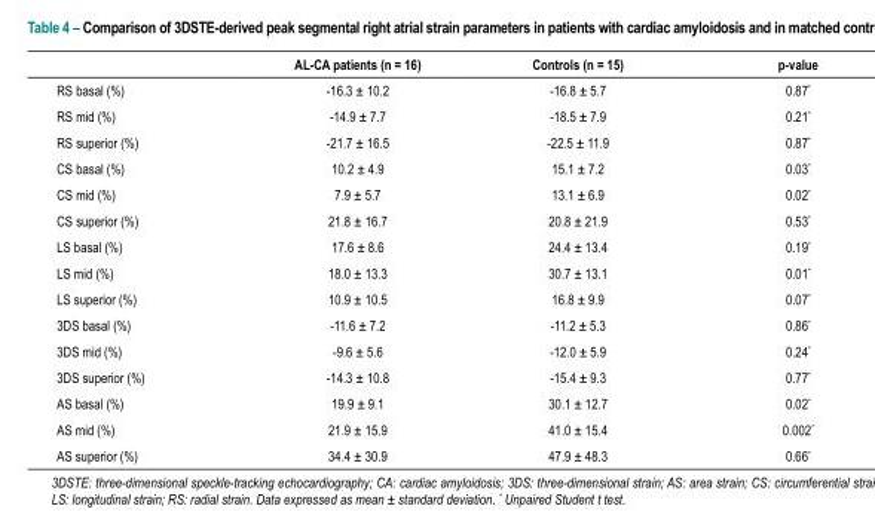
<table><thead><tr><td></td><td>AL-CA patients (n = 16)</td><td>Controls (n = 15)</td><td>p-value</td></tr></thead><tbody><tr><td>RS basal (%)</td><td>-16.3 ± 10.2</td><td>-16.8 ± 5.7</td><td>0.87*</td></tr><tr><td>RS mid (%)</td><td>-14.9 ± 7.7</td><td>-18.5 ± 7.9</td><td>0.21*</td></tr><tr><td>RS superior (%)</td><td>-21.7 ± 16.5</td><td>-22.5 ± 11.9</td><td>0.87*</td></tr><tr><td>CS basal (%)</td><td>10.2 ± 4.9</td><td>15.1 ± 7.2</td><td>0.03*</td></tr><tr><td>CS mid (%)</td><td>7.9 ± 5.7</td><td>13.1 ± 6.9</td><td>0.02*</td></tr><tr><td>CS superior (%)</td><td>21.8 ± 16.7</td><td>20.8 ± 21.9</td><td>0.53*</td></tr><tr><td>LS basal (%)</td><td>17.6 ± 8.6</td><td>24.4 ± 13.4</td><td>0.19*</td></tr><tr><td>LS mid (%)</td><td>18.0 ± 13.3</td><td>30.7 ± 13.1</td><td>0.01*</td></tr><tr><td>LS superior (%)</td><td>10.9 ± 10.5</td><td>16.8 ± 9.9</td><td>0.07*</td></tr><tr><td>3DS basal (%)</td><td>-11.6 ± 7.2</td><td>-11.2 ± 5.3</td><td>0.86*</td></tr><tr><td>3DS mid (%)</td><td>-9.6 ± 5.6</td><td>-12.0 ± 5.9</td><td>0.24*</td></tr><tr><td>3DS superior (%)</td><td>-14.3 ± 10.8</td><td>-15.4 ± 9.3</td><td>0.77*</td></tr><tr><td>AS basal (%)</td><td>19.9 ± 9.1</td><td>30.1 ± 12.7</td><td>0.02*</td></tr><tr><td>AS mid (%)</td><td>21.9 ± 15.9</td><td>41.0 ± 15.4</td><td>0.002*</td></tr><tr><td>AS superior (%)</td><td>34.4 ± 30.9</td><td>47.9 ± 48.3</td><td>0.66*</td></tr></tbody></table>